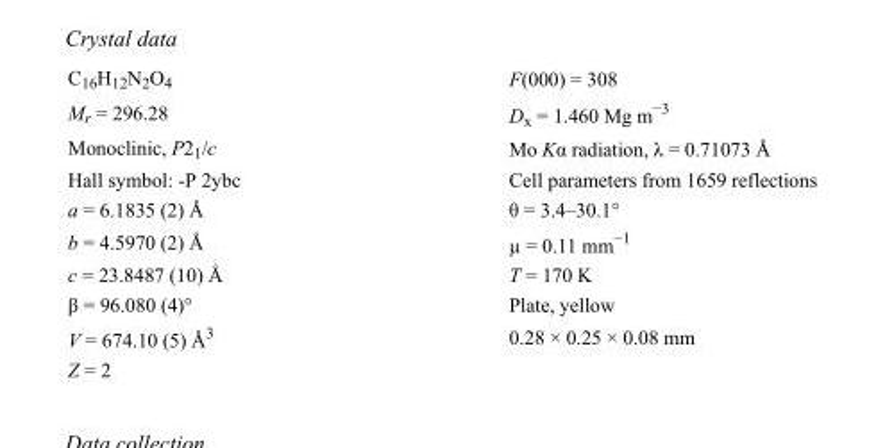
<table><tbody><tr><td>C<sub>16</sub>H<sub>12</sub>N<sub>2</sub>O<sub>4</sub></td><td>F(000) = 308</td></tr><tr><td>M<sub>r</sub> = 296.28</td><td>D<sub>x</sub> = 1.460 Mg m<sup>−3</sup></td></tr><tr><td>Monoclinic, P2<sub>1</sub>/c</td><td>Mo Kα radiation, λ = 0.71073 Å</td></tr><tr><td>Hall symbol: -P 2ybc</td><td>Cell parameters from 1659 reflections</td></tr><tr><td>a = 6.1835 (2) Å</td><td>θ = 3.4–30.1°</td></tr><tr><td>b = 4.5970 (2) Å</td><td>µ = 0.11 mm<sup>−1</sup></td></tr><tr><td>c = 23.8487 (10) Å</td><td>T = 170 K</td></tr><tr><td>β = 96.080 (4)°</td><td>Plate, yellow</td></tr><tr><td>V = 674.10 (5) Å<sup>3</sup></td><td>0.28 × 0.25 × 0.08 mm</td></tr><tr><td>Z = 2</td><td></td></tr></tbody></table>